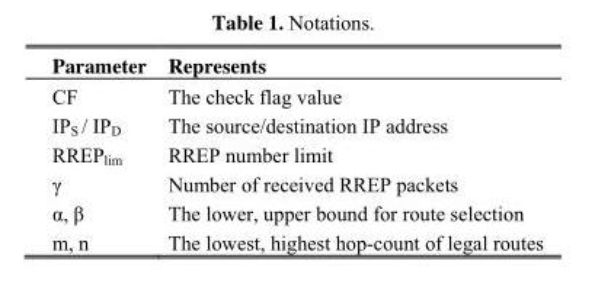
<table><thead><tr><td>Parameter</td><td>Represents</td></tr></thead><tbody><tr><td>CF</td><td>The check flag value</td></tr><tr><td>IP<sub>S</sub> / IP<sub>D</sub></td><td>The source/destination IP address</td></tr><tr><td>RREP<sub>lim</sub></td><td>RREP number limit</td></tr><tr><td>γ</td><td>Number of received RREP packets</td></tr><tr><td>α, β</td><td>The lower, upper bound for route selection</td></tr><tr><td>m, n</td><td>The lowest, highest hop-count of legal routes</td></tr></tbody></table>